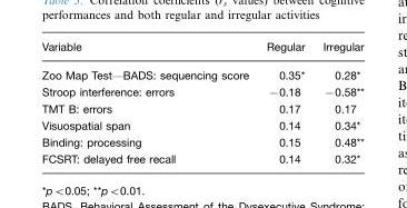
<table><thead><tr><td>Variable</td><td>Regular</td><td>Irregular</td></tr></thead><tbody><tr><td>Zoo Map Test*BADS: sequencing score</td><td>0.35*</td><td>0.28*</td></tr><tr><td>Stroop interference: errors</td><td>−0.18</td><td>−0.58**</td></tr><tr><td>TMT B: errors</td><td>0.17</td><td>0.17</td></tr><tr><td>Visuospatial span</td><td>0.14</td><td>0.34*</td></tr><tr><td>Binding: processing</td><td>0.15</td><td>0.48**</td></tr><tr><td>FCSRT: delayed free recall</td><td>0.14</td><td>0.32*</td></tr></tbody></table>